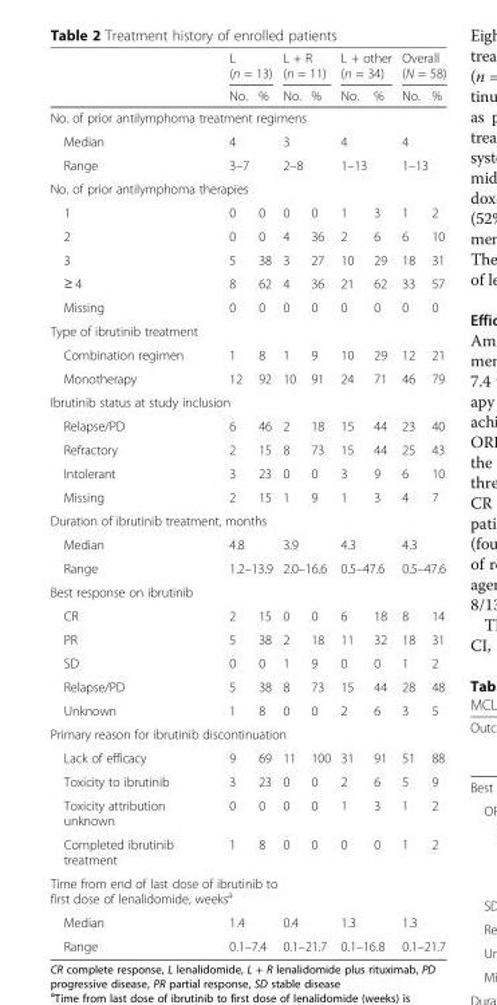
<table><thead><tr><td rowspan="2"></td><td colspan="2">L (n = 13)</td><td colspan="2">L + R (n = 11)</td><td colspan="2">L + other (n = 34)</td><td colspan="2">Overall (N = 58)</td></tr><tr><td>No.</td><td>%</td><td>No.</td><td>%</td><td>No.</td><td>%</td><td>No.</td><td>%</td></tr></thead><tbody><tr><td colspan="9">No. of prior antilymphoma treatment regimens</td></tr><tr><td>Median</td><td colspan="2">4</td><td colspan="2">3</td><td colspan="2">4</td><td colspan="2">4</td></tr><tr><td>Range</td><td colspan="2">3–7</td><td colspan="2">2–8</td><td colspan="2">1–13</td><td colspan="2">1–13</td></tr><tr><td colspan="9">No. of prior antilymphoma therapies</td></tr><tr><td>1</td><td>0</td><td>0</td><td>0</td><td>0</td><td>1</td><td>3</td><td>1</td><td>2</td></tr><tr><td>2</td><td>0</td><td>0</td><td>4</td><td>36</td><td>2</td><td>6</td><td>6</td><td>10</td></tr><tr><td>3</td><td>5</td><td>38</td><td>3</td><td>27</td><td>10</td><td>29</td><td>18</td><td>31</td></tr><tr><td>≥ 4</td><td>8</td><td>62</td><td>4</td><td>36</td><td>21</td><td>62</td><td>33</td><td>57</td></tr><tr><td>Missing</td><td>0</td><td>0</td><td>0</td><td>0</td><td>0</td><td>0</td><td>0</td><td>0</td></tr><tr><td colspan="9">Type of ibrutinib treatment</td></tr><tr><td>Combination regimen</td><td>1</td><td>8</td><td>1</td><td>9</td><td>10</td><td>29</td><td>12</td><td>21</td></tr><tr><td>Monotherapy</td><td>12</td><td>92</td><td>10</td><td>91</td><td>24</td><td>71</td><td>46</td><td>79</td></tr><tr><td colspan="9">Ibrutinib status at study inclusion</td></tr><tr><td>Relapse/PD</td><td>6</td><td>46</td><td>2</td><td>18</td><td>15</td><td>44</td><td>23</td><td>40</td></tr><tr><td>Refractory</td><td>2</td><td>15</td><td>8</td><td>73</td><td>15</td><td>44</td><td>25</td><td>43</td></tr><tr><td>Intolerant</td><td>3</td><td>23</td><td>0</td><td>0</td><td>3</td><td>9</td><td>6</td><td>10</td></tr><tr><td>Missing</td><td>2</td><td>15</td><td>1</td><td>9</td><td>1</td><td>3</td><td>4</td><td>7</td></tr><tr><td colspan="9">Duration of ibrutinib treatment, months</td></tr><tr><td>Median</td><td colspan="2">4.8</td><td colspan="2">3.9</td><td colspan="2">4.3</td><td colspan="2">4.3</td></tr><tr><td>Range</td><td colspan="2">1.2–13.9</td><td colspan="2">2.0–16.6</td><td colspan="2">0.5–47.6</td><td colspan="2">0.5–47.6</td></tr><tr><td colspan="9">Best response on ibrutinib</td></tr><tr><td>CR</td><td>2</td><td>15</td><td>0</td><td>0</td><td>6</td><td>18</td><td>8</td><td>14</td></tr><tr><td>PR</td><td>5</td><td>38</td><td>2</td><td>18</td><td>11</td><td>32</td><td>18</td><td>31</td></tr><tr><td>SD</td><td>0</td><td>0</td><td>1</td><td>9</td><td>0</td><td>0</td><td>1</td><td>2</td></tr><tr><td>Relapse/PD</td><td>5</td><td>38</td><td>8</td><td>73</td><td>15</td><td>44</td><td>28</td><td>48</td></tr><tr><td>Unknown</td><td>1</td><td>8</td><td>0</td><td>0</td><td>2</td><td>6</td><td>3</td><td>5</td></tr><tr><td colspan="9">Primary reason for ibrutinib discontinuation</td></tr><tr><td>Lack of efficacy</td><td>9</td><td>69</td><td>11</td><td>100</td><td>31</td><td>91</td><td>51</td><td>88</td></tr><tr><td>Toxicity to ibrutinib</td><td>3</td><td>23</td><td>0</td><td>0</td><td>2</td><td>6</td><td>5</td><td>9</td></tr><tr><td>Toxicity attribution unknown</td><td>0</td><td>0</td><td>0</td><td>0</td><td>1</td><td>3</td><td>1</td><td>2</td></tr><tr><td>Completed ibrutinib treatment</td><td>1</td><td>8</td><td>0</td><td>0</td><td>0</td><td>0</td><td>1</td><td>2</td></tr><tr><td colspan="9">Time from end of last dose of ibrutinib to first dose of lenalidomide, weeks<sup>a</sup></td></tr><tr><td>Median</td><td colspan="2">1.4</td><td colspan="2">0.4</td><td colspan="2">1.3</td><td colspan="2">1.3</td></tr><tr><td>Range</td><td colspan="2">0.1–7.4</td><td colspan="2">0.1–21.7</td><td colspan="2">0.1–16.8</td><td colspan="2">0.1–21.7</td></tr></tbody></table>